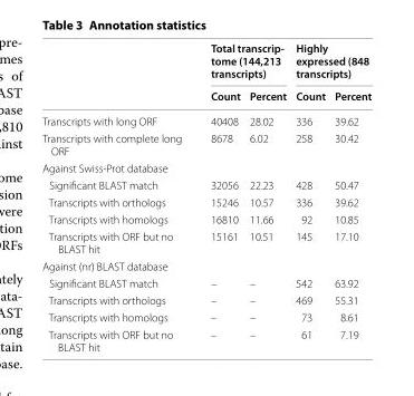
<table><thead><tr><td rowspan="2"></td><td colspan="2">Total transcrip- tome (144,213 transcripts)</td><td colspan="2">Highly expressed (848 transcripts)</td></tr><tr><td>Count</td><td>Percent</td><td>Count</td><td>Percent</td></tr></thead><tbody><tr><td>Transcripts with long ORF</td><td>40408</td><td>28.02</td><td>336</td><td>39.62</td></tr><tr><td>Transcripts with complete long ORF</td><td>8678</td><td>6.02</td><td>258</td><td>30.42</td></tr><tr><td colspan="5">Against Swiss-Prot database</td></tr><tr><td>Significant BLAST match</td><td>32056</td><td>22.23</td><td>428</td><td>50.47</td></tr><tr><td>Transcripts with orthologs</td><td>15246</td><td>10.57</td><td>336</td><td>39.62</td></tr><tr><td>Transcripts with homologs</td><td>16810</td><td>11.66</td><td>92</td><td>10.85</td></tr><tr><td>Transcripts with ORF but no BLAST hit</td><td>15161</td><td>10.51</td><td>145</td><td>17.10</td></tr><tr><td colspan="5">Against (nr) BLAST database</td></tr><tr><td>Significant BLAST match</td><td>–</td><td>–</td><td>542</td><td>63.92</td></tr><tr><td>Transcripts with orthologs</td><td>–</td><td>–</td><td>469</td><td>55.31</td></tr><tr><td>Transcripts with homologs</td><td>–</td><td>–</td><td>73</td><td>8.61</td></tr><tr><td>Transcripts with ORF but no BLAST hit</td><td>–</td><td>–</td><td>61</td><td>7.19</td></tr></tbody></table>